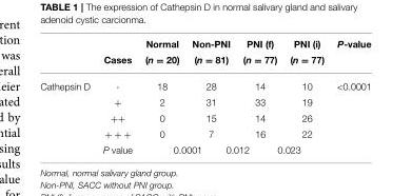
<table><thead><tr><td rowspan="2"></td><td rowspan="2">Cases</td><td rowspan="2">Normal (n = 20)</td><td rowspan="2">Non-PNI (n = 81)</td><td rowspan="2">PNI (f) (n = 77)</td><td rowspan="2">PNI (i) (n = 77)</td><td rowspan="2">P-value</td></tr><tr></tr></thead><tbody><tr><td rowspan="5">Cathepsin D</td><td>-</td><td>18</td><td>28</td><td>14</td><td>10</td><td>&lt;0.0001</td></tr><tr><td>+</td><td>2</td><td>31</td><td>33</td><td>19</td><td></td></tr><tr><td>++</td><td>0</td><td>15</td><td>14</td><td>26</td><td></td></tr><tr><td>+ + +</td><td>0</td><td>7</td><td>16</td><td>22</td><td></td></tr><tr><td>P value</td><td colspan="4">0.0001 0.012 0.023</td><td></td></tr></tbody></table>